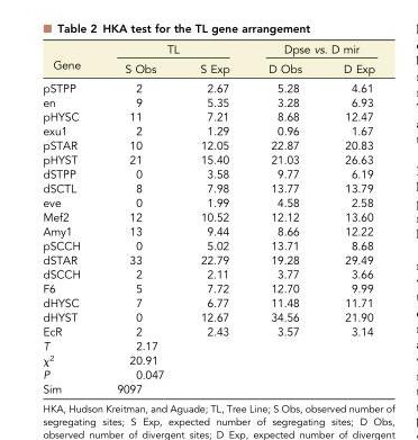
<table><thead><tr><td rowspan="2">Gene</td><td colspan="2">TL</td><td colspan="2">Dpse vs. D mir</td></tr><tr><td>S Obs</td><td>S Exp</td><td>D Obs</td><td>D Exp</td></tr></thead><tbody><tr><td>pSTPP</td><td>2</td><td>2.67</td><td>5.28</td><td>4.61</td></tr><tr><td>en</td><td>9</td><td>5.35</td><td>3.28</td><td>6.93</td></tr><tr><td>pHYSC</td><td>11</td><td>7.21</td><td>8.68</td><td>12.47</td></tr><tr><td>exu1</td><td>2</td><td>1.29</td><td>0.96</td><td>1.67</td></tr><tr><td>pSTAR</td><td>10</td><td>12.05</td><td>22.87</td><td>20.83</td></tr><tr><td>pHYST</td><td>21</td><td>15.40</td><td>21.03</td><td>26.63</td></tr><tr><td>dSTPP</td><td>0</td><td>3.58</td><td>9.77</td><td>6.19</td></tr><tr><td>dSCTL</td><td>8</td><td>7.98</td><td>13.77</td><td>13.79</td></tr><tr><td>eve</td><td>0</td><td>1.99</td><td>4.58</td><td>2.58</td></tr><tr><td>Mef2</td><td>12</td><td>10.52</td><td>12.12</td><td>13.60</td></tr><tr><td>Amy1</td><td>13</td><td>9.44</td><td>8.66</td><td>12.22</td></tr><tr><td>pSCCH</td><td>0</td><td>5.02</td><td>13.71</td><td>8.68</td></tr><tr><td>dSTAR</td><td>33</td><td>22.79</td><td>19.28</td><td>29.49</td></tr><tr><td>dSCCH</td><td>2</td><td>2.11</td><td>3.77</td><td>3.66</td></tr><tr><td>F6</td><td>5</td><td>7.72</td><td>12.70</td><td>9.99</td></tr><tr><td>dHYSC</td><td>7</td><td>6.77</td><td>11.48</td><td>11.71</td></tr><tr><td>dHYST</td><td>0</td><td>12.67</td><td>34.56</td><td>21.90</td></tr><tr><td>EcR</td><td>2</td><td>2.43</td><td>3.57</td><td>3.14</td></tr><tr><td>T</td><td>2.17</td><td></td><td></td><td></td></tr><tr><td>χ<sup>2</sup></td><td>20.91</td><td></td><td></td><td></td></tr><tr><td>P</td><td>0.047</td><td></td><td></td><td></td></tr><tr><td>Sim</td><td>9097</td><td></td><td></td><td></td></tr></tbody></table>